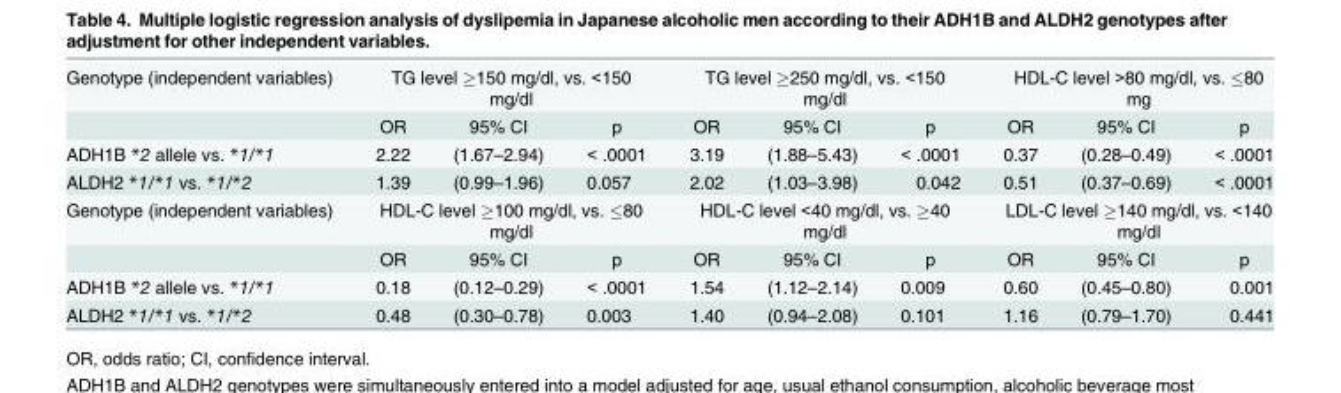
<table><tbody><tr><td rowspan="2">Genotype (independent variables)</td><td colspan="3">TG level ≥150 mg/dl, vs. &lt;150 mg/dl</td><td colspan="3">TG level ≥250 mg/dl, vs. &lt;150 mg/dl</td><td colspan="3">HDL-C level &gt;80 mg/dl, vs. ≤80 mg</td></tr><tr><td>OR</td><td>95% CI</td><td>p</td><td>OR</td><td>95% CI</td><td>p</td><td>OR</td><td>95% CI</td><td>p</td></tr><tr><td>ADH1B *2 allele vs. *1/*1</td><td>2.22</td><td>(1.67–2.94)</td><td>&lt; .0001</td><td>3.19</td><td>(1.88–5.43)</td><td>&lt; .0001</td><td>0.37</td><td>(0.28–0.49)</td><td>&lt; .0001</td></tr><tr><td>ALDH2 *1/*1 vs. *1/*2</td><td>1.39</td><td>(0.99–1.96)</td><td>0.057</td><td>2.02</td><td>(1.03–3.98)</td><td>0.042</td><td>0.51</td><td>(0.37–0.69)</td><td>&lt; .0001</td></tr><tr><td rowspan="2">Genotype (independent variables)</td><td colspan="3">HDL-C level ≥100 mg/dl, vs. ≤80 mg/dl</td><td colspan="3">HDL-C level &lt;40 mg/dl, vs. ≥40 mg/dl</td><td colspan="3">LDL-C level ≥140 mg/dl, vs. &lt;140 mg/dl</td></tr><tr><td>OR</td><td>95% CI</td><td>p</td><td>OR</td><td>95% CI</td><td>p</td><td>OR</td><td>95% CI</td><td>p</td></tr><tr><td>ADH1B *2 allele vs. *1/*1</td><td>0.18</td><td>(0.12–0.29)</td><td>&lt; .0001</td><td>1.54</td><td>(1.12–2.14)</td><td>0.009</td><td>0.60</td><td>(0.45–0.80)</td><td>0.001</td></tr><tr><td>ALDH2 *1/*1 vs. *1/*2</td><td>0.48</td><td>(0.30–0.78)</td><td>0.003</td><td>1.40</td><td>(0.94–2.08)</td><td>0.101</td><td>1.16</td><td>(0.79–1.70)</td><td>0.441</td></tr></tbody></table>